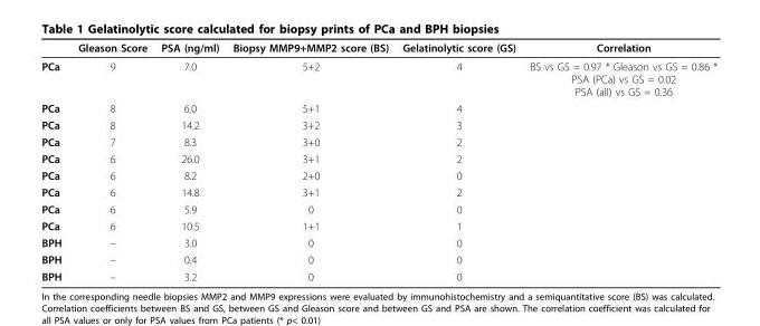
<table><thead><tr><td></td><td>Gleason Score</td><td>PSA (ng/ml)</td><td>Biopsy MMP9+MMP2 score (BS)</td><td>Gelatinolytic score (GS)</td><td>Correlation</td></tr></thead><tbody><tr><td>PCa</td><td>9</td><td>7.0</td><td>5+2</td><td>4</td><td>BS vs GS = 0.97 * Gleason vs GS = 0.86 * PSA (PCa) vs GS = 0.02 PSA (all) vs GS = 0.36</td></tr><tr><td>PCa</td><td>8</td><td>6.0</td><td>5+1</td><td>4</td><td></td></tr><tr><td>PCa</td><td>8</td><td>14.2</td><td>3+2</td><td>3</td><td></td></tr><tr><td>PCa</td><td>7</td><td>8.3</td><td>3+0</td><td>2</td><td></td></tr><tr><td>PCa</td><td>6</td><td>26.0</td><td>3+1</td><td>2</td><td></td></tr><tr><td>PCa</td><td>6</td><td>8.2</td><td>2+0</td><td>0</td><td></td></tr><tr><td>PCa</td><td>6</td><td>14.8</td><td>3+1</td><td>2</td><td></td></tr><tr><td>PCa</td><td>6</td><td>5.9</td><td>0</td><td>0</td><td></td></tr><tr><td>PCa</td><td>6</td><td>10.5</td><td>1+1</td><td>1</td><td></td></tr><tr><td>BPH</td><td>–</td><td>3.0</td><td>0</td><td>0</td><td></td></tr><tr><td>BPH</td><td>–</td><td>0.4</td><td>0</td><td>0</td><td></td></tr><tr><td>BPH</td><td>–</td><td>3.2</td><td>0</td><td>0</td><td></td></tr></tbody></table>